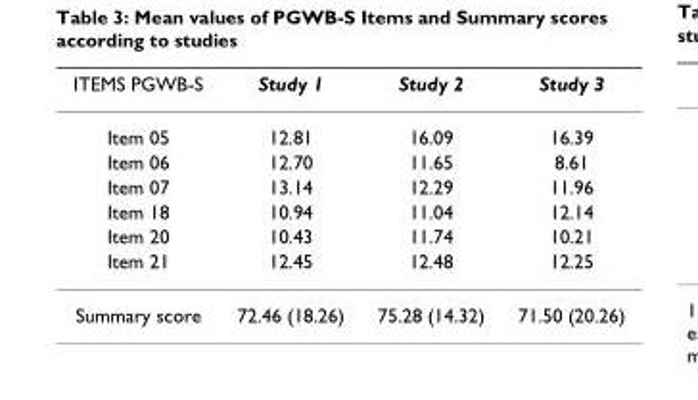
<table><thead><tr><td>ITEMS PGWB-S</td><td>Study 1</td><td>Study 2</td><td>Study 3</td></tr></thead><tbody><tr><td>Item 05</td><td>12.81</td><td>16.09</td><td>16.39</td></tr><tr><td>Item 06</td><td>12.70</td><td>11.65</td><td>8.61</td></tr><tr><td>Item 07</td><td>13.14</td><td>12.29</td><td>11.96</td></tr><tr><td>Item 18</td><td>10.94</td><td>11.04</td><td>12.14</td></tr><tr><td>Item 20</td><td>10.43</td><td>11.74</td><td>10.21</td></tr><tr><td>Item 21</td><td>12.45</td><td>12.48</td><td>12.25</td></tr><tr><td>Summary score</td><td>72.46 (18.26)</td><td>75.28 (14.32)</td><td>71.50 (20.26)</td></tr></tbody></table>